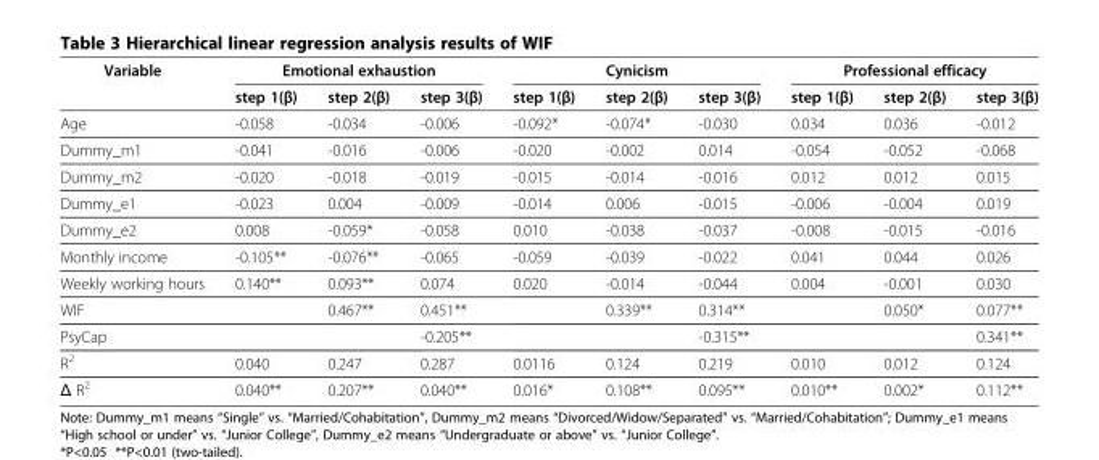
<table><thead><tr><td rowspan="2">Variable</td><td colspan="3">Emotional exhaustion</td><td colspan="3">Cynicism</td><td colspan="3">Professional efficacy</td></tr><tr><td>step 1(β)</td><td>step 2(β)</td><td>step 3(β)</td><td>step 1(β)</td><td>step 2(β)</td><td>step 3(β)</td><td>step 1(β)</td><td>step 2(β)</td><td>step 3(β)</td></tr></thead><tbody><tr><td>Age</td><td>-0.058</td><td>-0.034</td><td>-0.006</td><td>-0.092*</td><td>-0.074*</td><td>-0.030</td><td>0.034</td><td>0.036</td><td>-0.012</td></tr><tr><td>Dummy_m1</td><td>-0.041</td><td>-0.016</td><td>-0.006</td><td>-0.020</td><td>-0.002</td><td>0.014</td><td>-0.054</td><td>-0.052</td><td>-0.068</td></tr><tr><td>Dummy_m2</td><td>-0.020</td><td>-0.018</td><td>-0.019</td><td>-0.015</td><td>-0.014</td><td>-0.016</td><td>0.012</td><td>0.012</td><td>0.015</td></tr><tr><td>Dummy_e1</td><td>-0.023</td><td>0.004</td><td>-0.009</td><td>-0.014</td><td>0.006</td><td>-0.015</td><td>-0.006</td><td>-0.004</td><td>0.019</td></tr><tr><td>Dummy_e2</td><td>0.008</td><td>-0.059*</td><td>-0.058</td><td>0.010</td><td>-0.038</td><td>-0.037</td><td>-0.008</td><td>-0.015</td><td>-0.016</td></tr><tr><td>Monthly income</td><td>-0.105**</td><td>-0.076**</td><td>-0.065</td><td>-0.059</td><td>-0.039</td><td>-0.022</td><td>0.041</td><td>0.044</td><td>0.026</td></tr><tr><td>Weekly working hours</td><td>0.140**</td><td>0.093**</td><td>0.074</td><td>0.020</td><td>-0.014</td><td>-0.044</td><td>0.004</td><td>-0.001</td><td>0.030</td></tr><tr><td>WIF</td><td></td><td>0.467**</td><td>0.451**</td><td></td><td>0.339**</td><td>0.314**</td><td></td><td>0.050*</td><td>0.077**</td></tr><tr><td>PsyCap</td><td></td><td></td><td>-0.205**</td><td></td><td></td><td>-0.315**</td><td></td><td></td><td>0.341**</td></tr><tr><td>R<sup>2</sup></td><td>0.040</td><td>0.247</td><td>0.287</td><td>0.0116</td><td>0.124</td><td>0.219</td><td>0.010</td><td>0.012</td><td>0.124</td></tr><tr><td>Δ R<sup>2</sup></td><td>0.040**</td><td>0.207**</td><td>0.040**</td><td>0.016*</td><td>0.108**</td><td>0.095**</td><td>0.010**</td><td>0.002*</td><td>0.112**</td></tr></tbody></table>